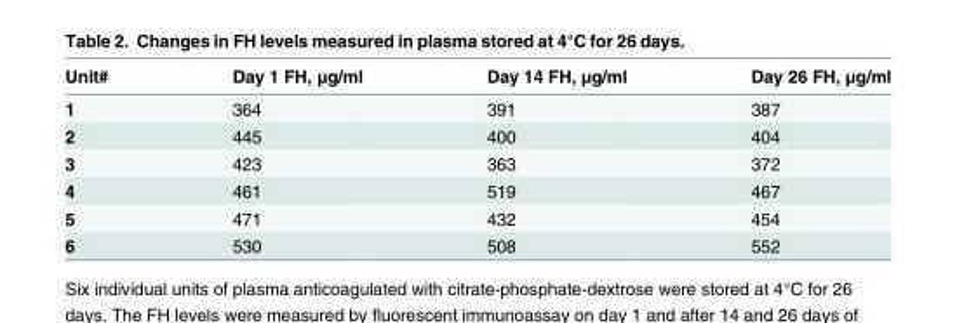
<table><thead><tr><td>Unit#</td><td>Day 1 FH, μg/ml</td><td>Day 14 FH, μg/ml</td><td>Day 26 FH, μg/ml</td></tr></thead><tbody><tr><td>1</td><td>364</td><td>391</td><td>387</td></tr><tr><td>2</td><td>445</td><td>400</td><td>404</td></tr><tr><td>3</td><td>423</td><td>363</td><td>372</td></tr><tr><td>4</td><td>461</td><td>519</td><td>467</td></tr><tr><td>5</td><td>471</td><td>432</td><td>454</td></tr><tr><td>6</td><td>530</td><td>508</td><td>552</td></tr></tbody></table>